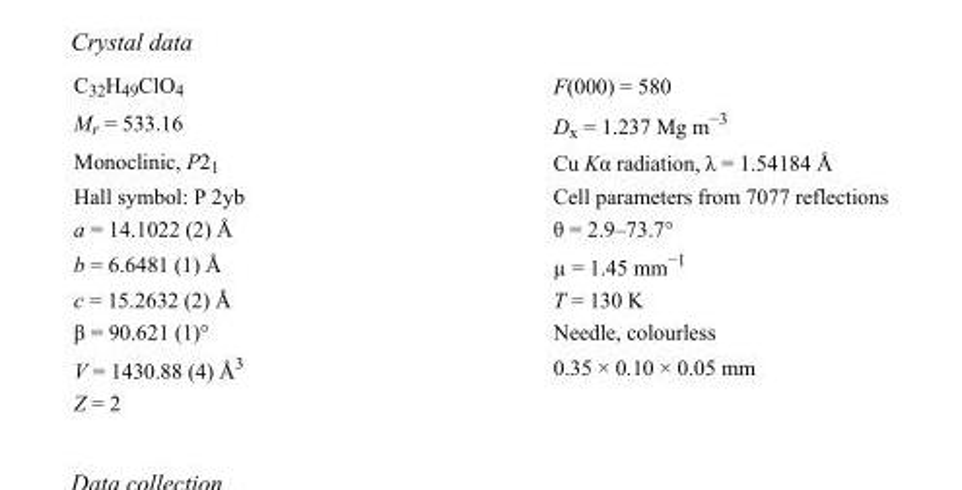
<table><tbody><tr><td>C<sub>32</sub>H<sub>49</sub>ClO<sub>4</sub></td><td>F(000) = 580</td></tr><tr><td>M<sub>r</sub> = 533.16</td><td>D<sub>x</sub> = 1.237 Mg m<sup>−3</sup></td></tr><tr><td>Monoclinic, P2<sub>1</sub></td><td>Cu Kα radiation, λ = 1.54184 Å</td></tr><tr><td>Hall symbol: P 2yb</td><td>Cell parameters from 7077 reflections</td></tr><tr><td>a = 14.1022 (2) Å</td><td>θ = 2.9–73.7°</td></tr><tr><td>b = 6.6481 (1) Å</td><td>µ = 1.45 mm<sup>−1</sup></td></tr><tr><td>c = 15.2632 (2) Å</td><td>T = 130 K</td></tr><tr><td>β = 90.621 (1)°</td><td>Needle, colourless</td></tr><tr><td>V = 1430.88 (4) Å<sup>3</sup></td><td>0.35 × 0.10 × 0.05 mm</td></tr><tr><td>Z = 2</td><td></td></tr></tbody></table>